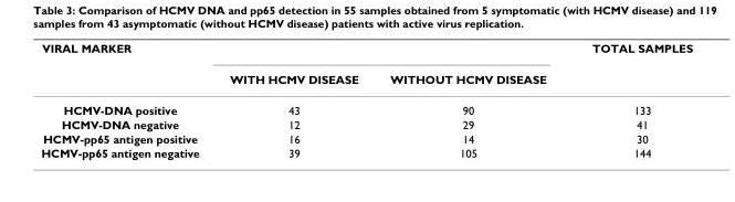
<table><thead><tr><td rowspan="2">VIRAL MARKER</td><td rowspan="2">WITH HCMV DISEASE</td><td rowspan="2">WITHOUT HCMV DISEASE</td><td rowspan="2">TOTAL SAMPLES</td></tr><tr></tr></thead><tbody><tr><td>HCMV-DNA positive</td><td>43</td><td>90</td><td>133</td></tr><tr><td>HCMV-DNA negative</td><td>12</td><td>29</td><td>41</td></tr><tr><td>HCMV-pp65 antigen positive</td><td>16</td><td>14</td><td>30</td></tr><tr><td>HCMV-pp65 antigen negative</td><td>39</td><td>105</td><td>144</td></tr></tbody></table>